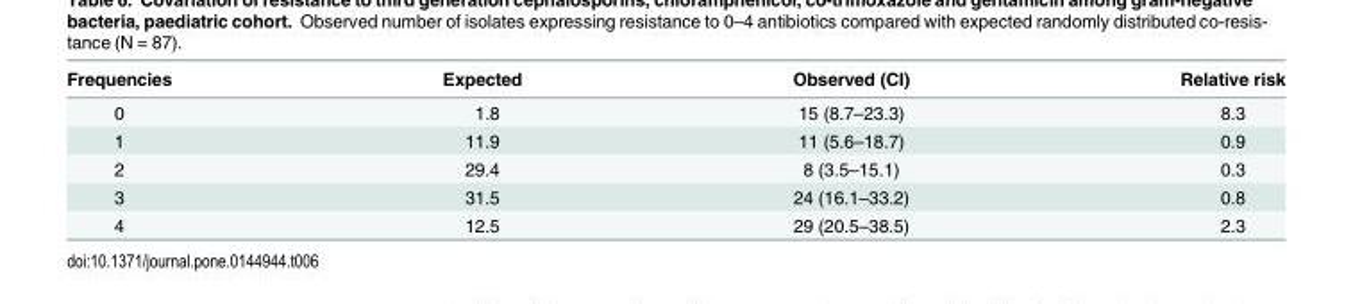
<table><thead><tr><td>Frequencies</td><td>Expected</td><td>Observed (CI)</td><td>Relative risk</td></tr></thead><tbody><tr><td>0</td><td>1.8</td><td>15 (8.7–23.3)</td><td>8.3</td></tr><tr><td>1</td><td>11.9</td><td>11 (5.6–18.7)</td><td>0.9</td></tr><tr><td>2</td><td>29.4</td><td>8 (3.5–15.1)</td><td>0.3</td></tr><tr><td>3</td><td>31.5</td><td>24 (16.1–33.2)</td><td>0.8</td></tr><tr><td>4</td><td>12.5</td><td>29 (20.5–38.5)</td><td>2.3</td></tr></tbody></table>